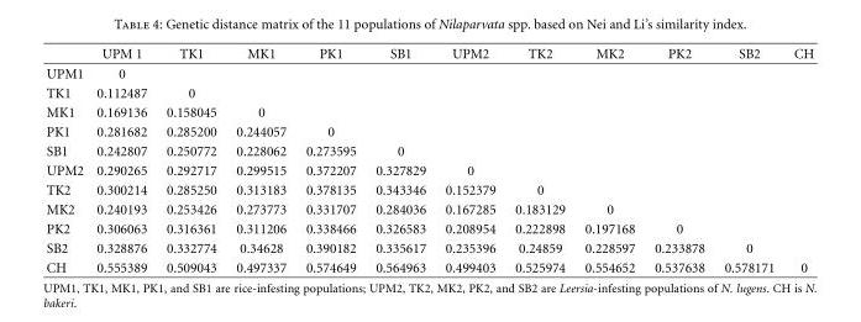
<table><thead><tr><td></td><td>UPM 1</td><td>TK1</td><td>MK1</td><td>PK1</td><td>SB1</td><td>UPM2</td><td>TK2</td><td>MK2</td><td>PK2</td><td>SB2</td><td>CH</td></tr></thead><tbody><tr><td>UPM1</td><td>0</td><td></td><td></td><td></td><td></td><td></td><td></td><td></td><td></td><td></td><td></td></tr><tr><td>TK1</td><td>0.112487</td><td>0</td><td></td><td></td><td></td><td></td><td></td><td></td><td></td><td></td><td></td></tr><tr><td>MK1</td><td>0.169136</td><td>0.158045</td><td>0</td><td></td><td></td><td></td><td></td><td></td><td></td><td></td><td></td></tr><tr><td>PK1</td><td>0.281682</td><td>0.285200</td><td>0.244057</td><td>0</td><td></td><td></td><td></td><td></td><td></td><td></td><td></td></tr><tr><td>SB1</td><td>0.242807</td><td>0.250772</td><td>0.228062</td><td>0.273595</td><td>0</td><td></td><td></td><td></td><td></td><td></td><td></td></tr><tr><td>UPM2</td><td>0.290265</td><td>0.292717</td><td>0.299515</td><td>0.372207</td><td>0.327829</td><td>0</td><td></td><td></td><td></td><td></td><td></td></tr><tr><td>TK2</td><td>0.300214</td><td>0.285250</td><td>0.313183</td><td>0.378135</td><td>0.343346</td><td>0.152379</td><td>0</td><td></td><td></td><td></td><td></td></tr><tr><td>MK2</td><td>0.240193</td><td>0.253426</td><td>0.273773</td><td>0.331707</td><td>0.284036</td><td>0.167285</td><td>0.183129</td><td>0</td><td></td><td></td><td></td></tr><tr><td>PK2</td><td>0.306063</td><td>0.316361</td><td>0.311206</td><td>0.338466</td><td>0.326583</td><td>0.208954</td><td>0.222898</td><td>0.197168</td><td>0</td><td></td><td></td></tr><tr><td>SB2</td><td>0.328876</td><td>0.332774</td><td>0.34628</td><td>0.390182</td><td>0.335617</td><td>0.235396</td><td>0.24859</td><td>0.228597</td><td>0.233878</td><td>0</td><td></td></tr><tr><td>CH</td><td>0.555389</td><td>0.509043</td><td>0.497337</td><td>0.574649</td><td>0.564963</td><td>0.499403</td><td>0.525974</td><td>0.554652</td><td>0.537638</td><td>0.578171</td><td>0</td></tr></tbody></table>